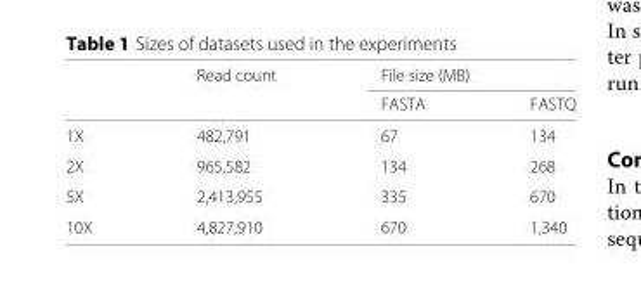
<table><thead><tr><td rowspan="2"></td><td rowspan="2">Read count</td><td colspan="2">File size (MB)</td></tr><tr><td>FASTA</td><td>FASTQ</td></tr></thead><tbody><tr><td>1X</td><td>482,791</td><td>67</td><td>134</td></tr><tr><td>2X</td><td>965,582</td><td>134</td><td>268</td></tr><tr><td>5X</td><td>2,413,955</td><td>335</td><td>670</td></tr><tr><td>10X</td><td>4,827,910</td><td>670</td><td>1,340</td></tr></tbody></table>